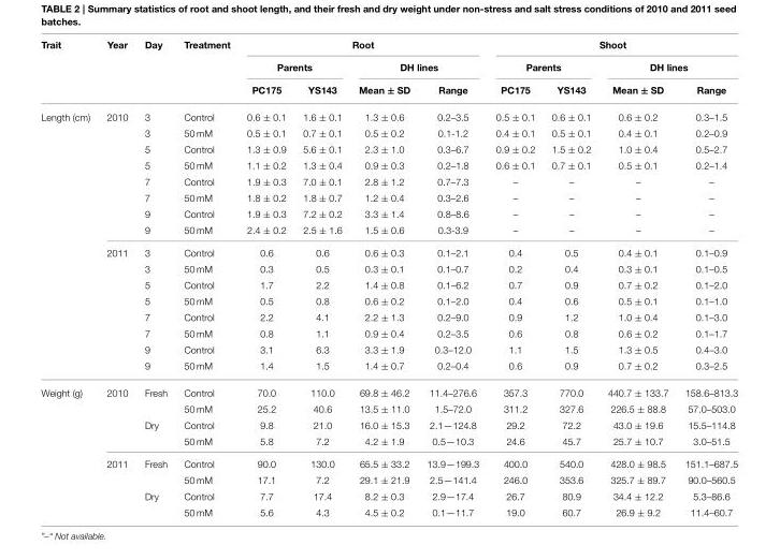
<table><thead><tr><td rowspan="3">Trait</td><td rowspan="3">Year</td><td rowspan="3">Day</td><td rowspan="3">Treatment</td><td colspan="4">Root</td><td colspan="4">Shoot</td></tr><tr><td colspan="2">Parents</td><td colspan="2">DH lines</td><td colspan="2">Parents</td><td colspan="2">DH lines</td></tr><tr><td>PC175</td><td>YS143</td><td>Mean ± SD</td><td>Range</td><td>PC175</td><td>YS143</td><td>Mean ± SD</td><td>Range</td></tr></thead><tbody><tr><td rowspan="16">Length (cm)</td><td>2010</td><td>3</td><td>Control</td><td>0.6 ± 0.1</td><td>1.6 ± 0.1</td><td>1.3 ± 0.6</td><td>0.2–3.5</td><td>0.5 ± 0.1</td><td>0.6 ± 0.1</td><td>0.6 ± 0.2</td><td>0.3–1.5</td></tr><tr><td></td><td>3</td><td>50 mM</td><td>0.5 ± 0.1</td><td>0.7 ± 0.1</td><td>0.5 ± 0.2</td><td>0.1-1.2</td><td>0.4 ± 0.1</td><td>0.5 ± 0.1</td><td>0.4 ± 0.1</td><td>0.2–0.9</td></tr><tr><td></td><td>5</td><td>Control</td><td>1.3 ± 0.9</td><td>5.6 ± 0.1</td><td>2.3 ± 1.0</td><td>0.3–6.7</td><td>0.9 ± 0.2</td><td>1.5 ± 0.2</td><td>1.0 ± 0.4</td><td>0.5–2.7</td></tr><tr><td></td><td>5</td><td>50 mM</td><td>1.1 ± 0.2</td><td>1.3 ± 0.4</td><td>0.9 ± 0.3</td><td>0.2–1.8</td><td>0.6 ± 0.1</td><td>0.7 ± 0.1</td><td>0.5 ± 0.1</td><td>0.2–1.4</td></tr><tr><td></td><td>7</td><td>Control</td><td>1.9 ± 0.3</td><td>7.0 ± 0.1</td><td>2.8 ± 1.2</td><td>0.7–7.3</td><td>–</td><td>–</td><td>–</td><td>–</td></tr><tr><td></td><td>7</td><td>50 mM</td><td>1.8 ± 0.2</td><td>1.8 ± 0.7</td><td>1.2 ± 0.4</td><td>0.3–2.6</td><td>–</td><td>–</td><td>–</td><td>–</td></tr><tr><td></td><td>9</td><td>Control</td><td>1.9 ± 0.3</td><td>7.2 ± 0.2</td><td>3.3 ± 1.4</td><td>0.8–8.6</td><td>–</td><td>–</td><td>–</td><td>–</td></tr><tr><td></td><td>9</td><td>50 mM</td><td>2.4 ± 0.2</td><td>2.5 ± 1.6</td><td>1.5 ± 0.6</td><td>0.3-3.9</td><td>–</td><td>–</td><td>–</td><td>–</td></tr><tr><td>2011</td><td>3</td><td>Control</td><td>0.6</td><td>0.6</td><td>0.6 ± 0.3</td><td>0.1–2.1</td><td>0.4</td><td>0.5</td><td>0.4 ± 0.1</td><td>0.1–0.9</td></tr><tr><td></td><td>3</td><td>50 mM</td><td>0.3</td><td>0.5</td><td>0.3 ± 0.1</td><td>0.1–0.7</td><td>0.2</td><td>0.4</td><td>0.3 ± 0.1</td><td>0.1–0.5</td></tr><tr><td></td><td>5</td><td>Control</td><td>1.7</td><td>2.2</td><td>1.4 ± 0.8</td><td>0.1–6.2</td><td>0.7</td><td>0.9</td><td>0.7 ± 0.2</td><td>0.1–2.0</td></tr><tr><td></td><td>5</td><td>50 mM</td><td>0.5</td><td>0.8</td><td>0.6 ± 0.2</td><td>0.1–2.0</td><td>0.4</td><td>0.6</td><td>0.5 ± 0.1</td><td>0.1–1.0</td></tr><tr><td></td><td>7</td><td>Control</td><td>2.2</td><td>4.1</td><td>2.2 ± 1.3</td><td>0.2–9.0</td><td>0.9</td><td>1.2</td><td>1.0 ± 0.4</td><td>0.1–3.0</td></tr><tr><td></td><td>7</td><td>50 mM</td><td>0.8</td><td>1.1</td><td>0.9 ± 0.4</td><td>0.2–3.5</td><td>0.6</td><td>0.8</td><td>0.6 ± 0.2</td><td>0.1–1.7</td></tr><tr><td></td><td>9</td><td>Control</td><td>3.1</td><td>6.3</td><td>3.3 ± 1.9</td><td>0.3–12.0</td><td>1.1</td><td>1.5</td><td>1.3 ± 0.5</td><td>0.4–3.0</td></tr><tr><td></td><td>9</td><td>50 mM</td><td>1.4</td><td>1.5</td><td>1.4 ± 0.7</td><td>0.2–0.4</td><td>0.6</td><td>0.9</td><td>0.7 ± 0.2</td><td>0.3–2.5</td></tr><tr><td rowspan="8">Weight (g)</td><td>2010</td><td>Fresh</td><td>Control</td><td>70.0</td><td>110.0</td><td>69.8 ± 46.2</td><td>11.4–276.6</td><td>357.3</td><td>770.0</td><td>440.7 ± 133.7</td><td>158.6–813.3</td></tr><tr><td></td><td></td><td>50 mM</td><td>25.2</td><td>40.6</td><td>13.5 ± 11.0</td><td>1.5–72.0</td><td>311.2</td><td>327.6</td><td>226.5 ± 88.8</td><td>57.0–503.0</td></tr><tr><td></td><td>Dry</td><td>Control</td><td>9.8</td><td>21.0</td><td>16.0 ± 15.3</td><td>2.1—124.8</td><td>29.2</td><td>72.2</td><td>43.0 ± 19.6</td><td>15.5–114.8</td></tr><tr><td></td><td></td><td>50 mM</td><td>5.8</td><td>7.2</td><td>4.2 ± 1.9</td><td>0.5—10.3</td><td>24.6</td><td>45.7</td><td>25.7 ± 10.7</td><td>3.0–51.5</td></tr><tr><td>2011</td><td>Fresh</td><td>Control</td><td>90.0</td><td>130.0</td><td>65.5 ± 33.2</td><td>13.9—199.3</td><td>400.0</td><td>540.0</td><td>428.0 ± 98.5</td><td>151.1–687.5</td></tr><tr><td></td><td></td><td>50 mM</td><td>17.1</td><td>7.2</td><td>29.1 ± 21.9</td><td>2.5—141.4</td><td>246.0</td><td>353.6</td><td>325.7 ± 89.7</td><td>90.0–560.5</td></tr><tr><td></td><td>Dry</td><td>Control</td><td>7.7</td><td>17.4</td><td>8.2 ± 0.3</td><td>2.9—17.4</td><td>26.7</td><td>80.9</td><td>34.4 ± 12.2</td><td>5.3–86.6</td></tr><tr><td></td><td></td><td>50 mM</td><td>5.6</td><td>4.3</td><td>4.5 ± 0.2</td><td>0.1—11.7</td><td>19.0</td><td>60.7</td><td>26.9 ± 9.2</td><td>11.4–60.7</td></tr></tbody></table>